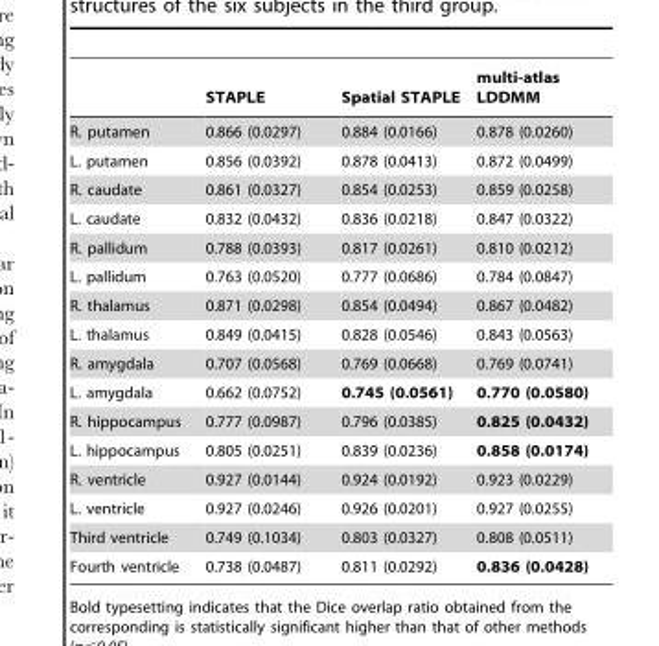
<table><thead><tr><td></td><td>STAPLE</td><td>Spatial STAPLE</td><td>multi-atlas LDDMM</td></tr></thead><tbody><tr><td>R. putamen</td><td>0.866 (0.0297)</td><td>0.884 (0.0166)</td><td>0.878 (0.0260)</td></tr><tr><td>L. putamen</td><td>0.856 (0.0392)</td><td>0.878 (0.0413)</td><td>0.872 (0.0499)</td></tr><tr><td>R. caudate</td><td>0.861 (0.0327)</td><td>0.854 (0.0253)</td><td>0.859 (0.0258)</td></tr><tr><td>L. caudate</td><td>0.832 (0.0432)</td><td>0.836 (0.0218)</td><td>0.847 (0.0322)</td></tr><tr><td>R. pallidum</td><td>0.788 (0.0393)</td><td>0.817 (0.0261)</td><td>0.810 (0.0212)</td></tr><tr><td>L. pallidum</td><td>0.763 (0.0520)</td><td>0.777 (0.0686)</td><td>0.784 (0.0847)</td></tr><tr><td>R. thalamus</td><td>0.871 (0.0298)</td><td>0.854 (0.0494)</td><td>0.867 (0.0482)</td></tr><tr><td>L. thalamus</td><td>0.849 (0.0415)</td><td>0.828 (0.0546)</td><td>0.843 (0.0563)</td></tr><tr><td>R. amygdala</td><td>0.707 (0.0568)</td><td>0.769 (0.0668)</td><td>0.769 (0.0741)</td></tr><tr><td>L. amygdala</td><td>0.662 (0.0752)</td><td>0.745 (0.0561)</td><td>0.770 (0.0580)</td></tr><tr><td>R. hippocampus</td><td>0.777 (0.0987)</td><td>0.796 (0.0385)</td><td>0.825 (0.0432)</td></tr><tr><td>L. hippocampus</td><td>0.805 (0.0251)</td><td>0.839 (0.0236)</td><td>0.858 (0.0174)</td></tr><tr><td>R. ventricle</td><td>0.927 (0.0144)</td><td>0.924 (0.0192)</td><td>0.923 (0.0229)</td></tr><tr><td>L. ventricle</td><td>0.927 (0.0246)</td><td>0.926 (0.0201)</td><td>0.927 (0.0255)</td></tr><tr><td>Third ventricle</td><td>0.749 (0.1034)</td><td>0.803 (0.0327)</td><td>0.808 (0.0511)</td></tr><tr><td>Fourth ventricle</td><td>0.738 (0.0487)</td><td>0.811 (0.0292)</td><td>0.836 (0.0428)</td></tr></tbody></table>